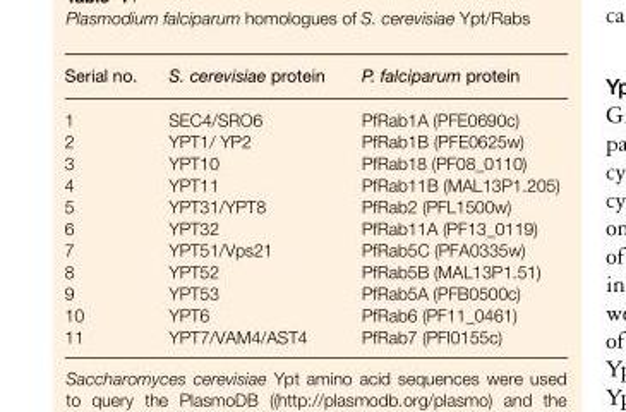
<table><thead><tr><td>Serial no.</td><td>S. cerevisiae protein</td><td>P. falciparum protein</td></tr></thead><tbody><tr><td>1</td><td>SEC4/SRO6</td><td>PfRab1A (PFE0690c)</td></tr><tr><td>2</td><td>YPT1/ YP2</td><td>PfRab1B (PFE0625w)</td></tr><tr><td>3</td><td>YPT10</td><td>PfRab18 (PF08_0110)</td></tr><tr><td>4</td><td>YPT11</td><td>PfRab11B (MAL13P1.205)</td></tr><tr><td>5</td><td>YPT31/YPT8</td><td>PfRab2 (PFL1500w)</td></tr><tr><td>6</td><td>YPT32</td><td>PfRab11A (PF13_0119)</td></tr><tr><td>7</td><td>YPT51/Vps21</td><td>PfRab5C (PFA0335w)</td></tr><tr><td>8</td><td>YPT52</td><td>PfRab5B (MAL13P1.51)</td></tr><tr><td>9</td><td>YPT53</td><td>PfRab5A (PFB0500c)</td></tr><tr><td>10</td><td>YPT6</td><td>PfRab6 (PF11_0461)</td></tr><tr><td>11</td><td>YPT7/VAM4/AST4</td><td>PfRab7 (PFI0155c)</td></tr></tbody></table>